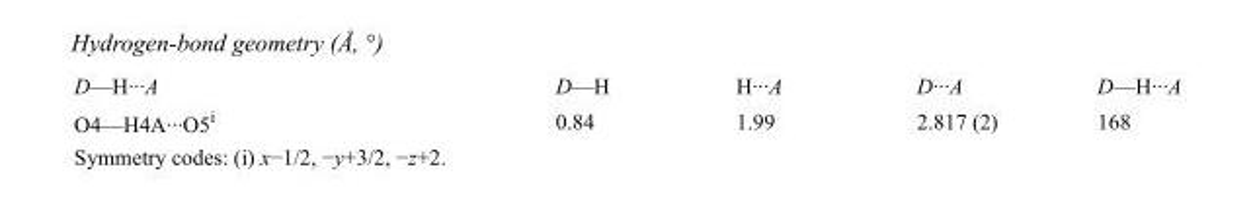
<table><tbody><tr><td>D—H···A</td><td>D—H</td><td>H···A</td><td>D···A</td><td>D—H···A</td></tr><tr><td>O4—H4A···O5<sup>i</sup></td><td>0.84</td><td>1.99</td><td>2.817 (2)</td><td>168</td></tr></tbody></table>